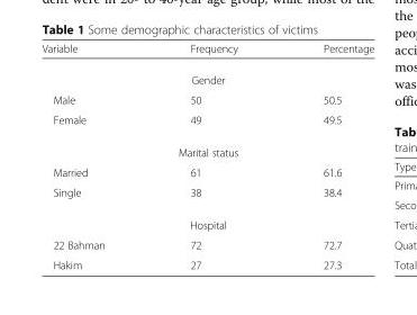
<table><thead><tr><td>Variable</td><td>Frequency</td><td>Percentage</td></tr></thead><tbody><tr><td colspan="3">Gender</td></tr><tr><td>Male</td><td>50</td><td>50.5</td></tr><tr><td>Female</td><td>49</td><td>49.5</td></tr><tr><td colspan="3">Marital status</td></tr><tr><td>Married</td><td>61</td><td>61.6</td></tr><tr><td>Single</td><td>38</td><td>38.4</td></tr><tr><td colspan="3">Hospital</td></tr><tr><td>22 Bahman</td><td>72</td><td>72.7</td></tr><tr><td>Hakim</td><td>27</td><td>27.3</td></tr></tbody></table>